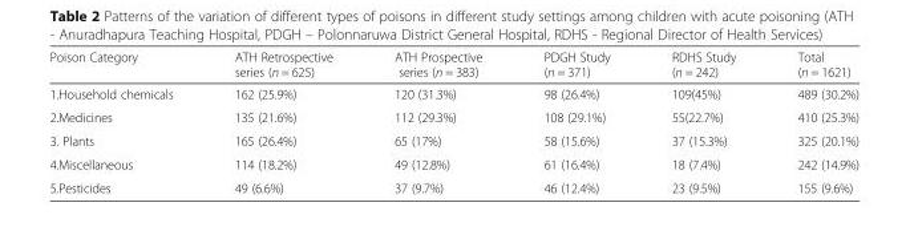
<table><thead><tr><td>Poison Category</td><td>ATH Retrospective series (n = 625)</td><td>ATH Prospective series (n = 383)</td><td>PDGH Study (n = 371)</td><td>RDHS Study (n = 242)</td><td>Total (n = 1621)</td></tr></thead><tbody><tr><td>1.Household chemicals</td><td>162 (25.9%)</td><td>120 (31.3%)</td><td>98 (26.4%)</td><td>109(45%)</td><td>489 (30.2%)</td></tr><tr><td>2.Medicines</td><td>135 (21.6%)</td><td>112 (29.3%)</td><td>108 (29.1%)</td><td>55(22.7%)</td><td>410 (25.3%)</td></tr><tr><td>3. Plants</td><td>165 (26.4%)</td><td>65 (17%)</td><td>58 (15.6%)</td><td>37 (15.3%)</td><td>325 (20.1%)</td></tr><tr><td>4.Miscellaneous</td><td>114 (18.2%)</td><td>49 (12.8%)</td><td>61 (16.4%)</td><td>18 (7.4%)</td><td>242 (14.9%)</td></tr><tr><td>5.Pesticides</td><td>49 (6.6%)</td><td>37 (9.7%)</td><td>46 (12.4%)</td><td>23 (9.5%)</td><td>155 (9.6%)</td></tr></tbody></table>